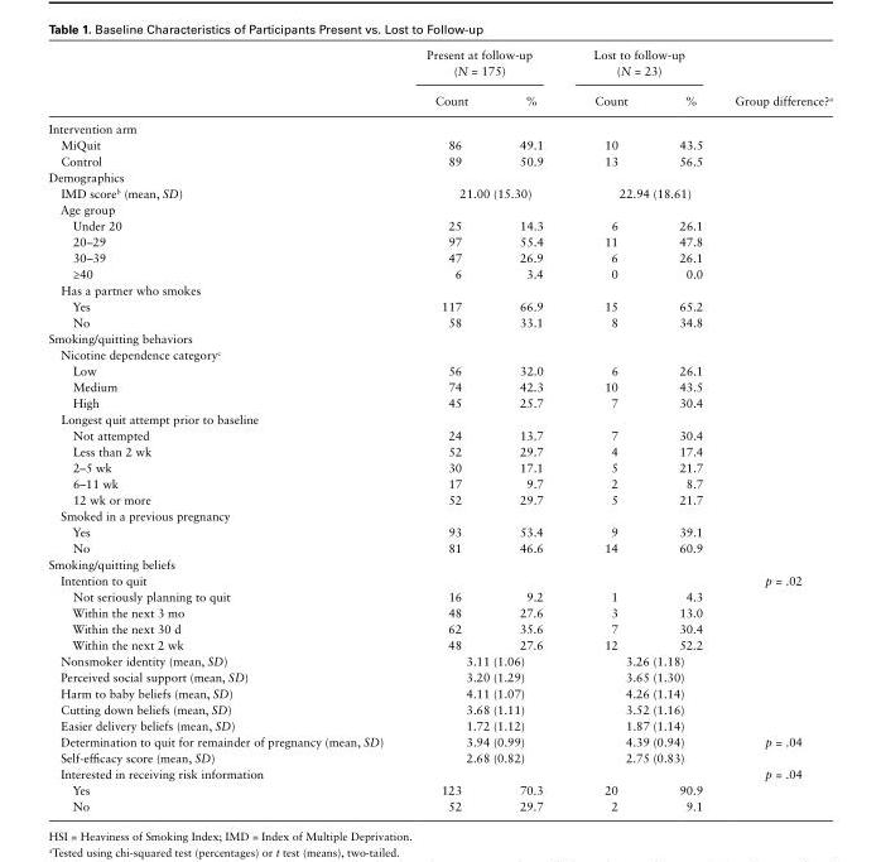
<table><thead><tr><td rowspan="2"></td><td colspan="2">Present at follow-up (N = 175)</td><td colspan="2">Lost to follow-up (N = 23)</td><td rowspan="2">Group difference?<sup>a</sup></td></tr><tr><td>Count</td><td>%</td><td>Count</td><td>%</td></tr></thead><tbody><tr><td colspan="6">Intervention arm</td></tr><tr><td>MiQuit</td><td>86</td><td>49.1</td><td>10</td><td>43.5</td><td></td></tr><tr><td>Control</td><td>89</td><td>50.9</td><td>13</td><td>56.5</td><td></td></tr><tr><td colspan="6">Demographics</td></tr><tr><td>IMD score<sup>b</sup> (mean, SD)</td><td colspan="2">21.00 (15.30)</td><td colspan="2">22.94 (18.61)</td><td></td></tr><tr><td colspan="6">Age group</td></tr><tr><td>Under 20</td><td>25</td><td>14.3</td><td>6</td><td>26.1</td><td></td></tr><tr><td>20–29</td><td>97</td><td>55.4</td><td>11</td><td>47.8</td><td></td></tr><tr><td>30–39</td><td>47</td><td>26.9</td><td>6</td><td>26.1</td><td></td></tr><tr><td>≥40</td><td>6</td><td>3.4</td><td>0</td><td>0.0</td><td></td></tr><tr><td colspan="6">Has a partner who smokes</td></tr><tr><td>Yes</td><td>117</td><td>66.9</td><td>15</td><td>65.2</td><td></td></tr><tr><td>No</td><td>58</td><td>33.1</td><td>8</td><td>34.8</td><td></td></tr><tr><td colspan="6">Smoking/quitting behaviors</td></tr><tr><td colspan="6">Nicotine dependence category<sup>c</sup></td></tr><tr><td>Low</td><td>56</td><td>32.0</td><td>6</td><td>26.1</td><td></td></tr><tr><td>Medium</td><td>74</td><td>42.3</td><td>10</td><td>43.5</td><td></td></tr><tr><td>High</td><td>45</td><td>25.7</td><td>7</td><td>30.4</td><td></td></tr><tr><td colspan="6">Longest quit attempt prior to baseline</td></tr><tr><td>Not attempted</td><td>24</td><td>13.7</td><td>7</td><td>30.4</td><td></td></tr><tr><td>Less than 2 wk</td><td>52</td><td>29.7</td><td>4</td><td>17.4</td><td></td></tr><tr><td>2–5 wk</td><td>30</td><td>17.1</td><td>5</td><td>21.7</td><td></td></tr><tr><td>6–11 wk</td><td>17</td><td>9.7</td><td>2</td><td>8.7</td><td></td></tr><tr><td>12 wk or more</td><td>52</td><td>29.7</td><td>5</td><td>21.7</td><td></td></tr><tr><td colspan="6">Smoked in a previous pregnancy</td></tr><tr><td>Yes</td><td>93</td><td>53.4</td><td>9</td><td>39.1</td><td></td></tr><tr><td>No</td><td>81</td><td>46.6</td><td>14</td><td>60.9</td><td></td></tr><tr><td colspan="6">Smoking/quitting beliefs</td></tr><tr><td colspan="5">Intention to quit</td><td>p = .02</td></tr><tr><td>Not seriously planning to quit</td><td>16</td><td>9.2</td><td>1</td><td>4.3</td><td></td></tr><tr><td>Within the next 3 mo</td><td>48</td><td>27.6</td><td>3</td><td>13.0</td><td></td></tr><tr><td>Within the next 30 d</td><td>62</td><td>35.6</td><td>7</td><td>30.4</td><td></td></tr><tr><td>Within the next 2 wk</td><td>48</td><td>27.6</td><td>12</td><td>52.2</td><td></td></tr><tr><td>Nonsmoker identity (mean, SD)</td><td colspan="2">3.11 (1.06)</td><td colspan="2">3.26 (1.18)</td><td></td></tr><tr><td>Perceived social support (mean, SD)</td><td colspan="2">3.20 (1.29)</td><td colspan="2">3.65 (1.30)</td><td></td></tr><tr><td>Harm to baby beliefs (mean, SD)</td><td colspan="2">4.11 (1.07)</td><td colspan="2">4.26 (1.14)</td><td></td></tr><tr><td>Cutting down beliefs (mean, SD)</td><td colspan="2">3.68 (1.11)</td><td colspan="2">3.52 (1.16)</td><td></td></tr><tr><td>Easier delivery beliefs (mean, SD)</td><td colspan="2">1.72 (1.12)</td><td colspan="2">1.87 (1.14)</td><td></td></tr><tr><td>Determination to quit for remainder of pregnancy (mean, SD)</td><td colspan="2">3.94 (0.99)</td><td colspan="2">4.39 (0.94)</td><td>p = .04</td></tr><tr><td>Self-efficacy score (mean, SD)</td><td colspan="2">2.68 (0.82)</td><td colspan="2">2.75 (0.83)</td><td></td></tr><tr><td colspan="5">Interested in receiving risk information</td><td>p = .04</td></tr><tr><td>Yes</td><td>123</td><td>70.3</td><td>20</td><td>90.9</td><td></td></tr><tr><td>No</td><td>52</td><td>29.7</td><td>2</td><td>9.1</td><td></td></tr></tbody></table>